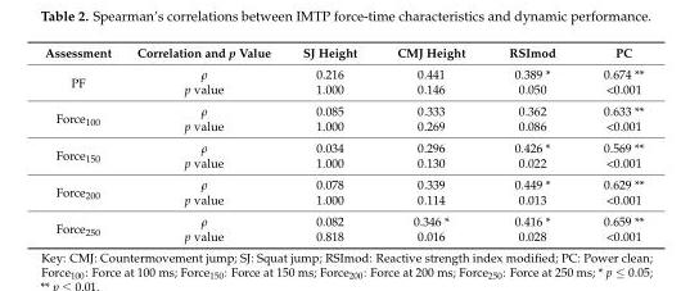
<table><thead><tr><td>Assessment</td><td>Correlation and p Value</td><td>SJ Height</td><td>CMJ Height</td><td>RSImod</td><td>PC</td></tr></thead><tbody><tr><td rowspan="2">PF</td><td>ρ</td><td>0.216</td><td>0.441</td><td>0.389 *</td><td>0.674 **</td></tr><tr><td>p value</td><td>1.000</td><td>0.146</td><td>0.050</td><td>&lt;0.001</td></tr><tr><td rowspan="2">Force<sub>100</sub></td><td>ρ</td><td>0.085</td><td>0.333</td><td>0.362</td><td>0.633 **</td></tr><tr><td>p value</td><td>1.000</td><td>0.269</td><td>0.086</td><td>&lt;0.001</td></tr><tr><td rowspan="2">Force<sub>150</sub></td><td>ρ</td><td>0.034</td><td>0.296</td><td>0.426 *</td><td>0.569 **</td></tr><tr><td>p value</td><td>1.000</td><td>0.130</td><td>0.022</td><td>&lt;0.001</td></tr><tr><td rowspan="2">Force<sub>200</sub></td><td>ρ</td><td>0.078</td><td>0.339</td><td>0.449 *</td><td>0.629 **</td></tr><tr><td>p value</td><td>1.000</td><td>0.114</td><td>0.013</td><td>&lt;0.001</td></tr><tr><td rowspan="2">Force<sub>250</sub></td><td>ρ</td><td>0.082</td><td>0.346 *</td><td>0.416 *</td><td>0.659 **</td></tr><tr><td>p value</td><td>0.818</td><td>0.016</td><td>0.028</td><td>&lt;0.001</td></tr></tbody></table>